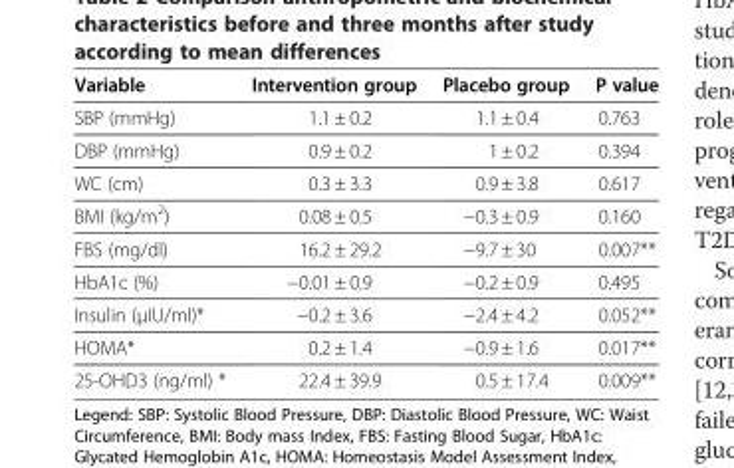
<table><thead><tr><td>Variable</td><td>Intervention group</td><td>Placebo group</td><td>P value</td></tr></thead><tbody><tr><td>SBP (mmHg)</td><td>1.1 ± 0.2</td><td>1.1 ± 0.4</td><td>0.763</td></tr><tr><td>DBP (mmHg)</td><td>0.9 ± 0.2</td><td>1 ± 0.2</td><td>0.394</td></tr><tr><td>WC (cm)</td><td>0.3 ± 3.3</td><td>0.9 ± 3.8</td><td>0.617</td></tr><tr><td>BMI (kg/m<sup>2</sup>)</td><td>0.08 ± 0.5</td><td>−0.3 ± 0.9</td><td>0.160</td></tr><tr><td>FBS (mg/dl)</td><td>16.2 ± 29.2</td><td>−9.7 ± 30</td><td>0.007**</td></tr><tr><td>HbA1c (%)</td><td>−0.01 ± 0.9</td><td>−0.2 ± 0.9</td><td>0.495</td></tr><tr><td>Insulin (μIU/ml)*</td><td>−0.2 ± 3.6</td><td>−2.4 ± 4.2</td><td>0.052**</td></tr><tr><td>HOMA*</td><td>0.2 ± 1.4</td><td>−0.9 ± 1.6</td><td>0.017**</td></tr><tr><td>25-OHD3 (ng/ml) *</td><td>22.4 ± 39.9</td><td>0.5 ± 17.4</td><td>0.009**</td></tr></tbody></table>